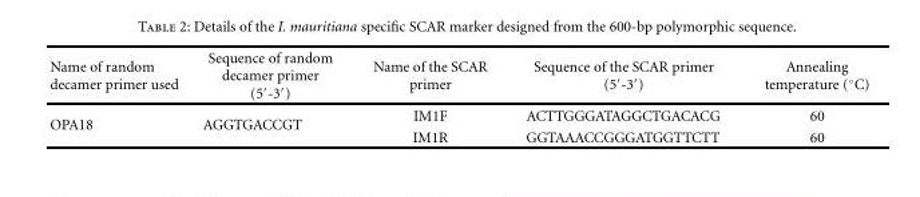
<table><thead><tr><td>Name of random decamer primer used</td><td>Sequence of random decamer primer (5′-3′)</td><td>Name of the SCAR primer</td><td>Sequence of the SCAR primer (5′-3′)</td><td>Annealing temperature (◦C)</td></tr></thead><tbody><tr><td rowspan="2">OPA18</td><td rowspan="2">AGGTGACCGT</td><td>IM1F</td><td>ACTTGGGATAGGCTGACACG</td><td>60</td></tr><tr><td>IM1R</td><td>GGTAAACCGGGATGGTTCTT</td><td>60</td></tr></tbody></table>